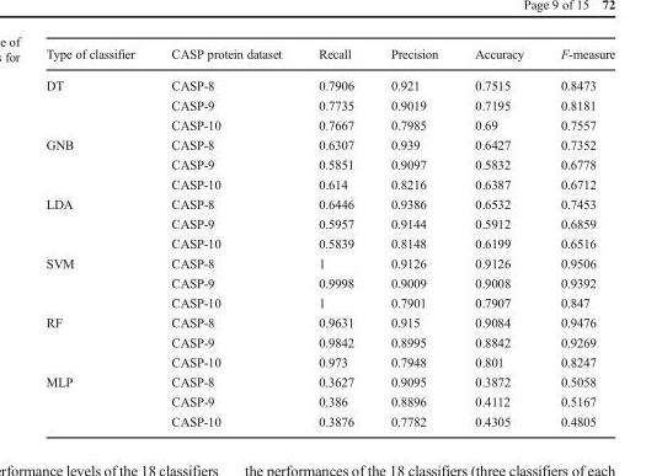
<table><thead><tr><td>Type of classifier</td><td>CASP protein dataset</td><td>Recall</td><td>Precision</td><td>Accuracy</td><td>F-measure</td></tr></thead><tbody><tr><td rowspan="3">DT</td><td>CASP-8</td><td>0.7906</td><td>0.921</td><td>0.7515</td><td>0.8473</td></tr><tr><td>CASP-9</td><td>0.7735</td><td>0.9019</td><td>0.7195</td><td>0.8181</td></tr><tr><td>CASP-10</td><td>0.7667</td><td>0.7985</td><td>0.69</td><td>0.7557</td></tr><tr><td rowspan="3">GNB</td><td>CASP-8</td><td>0.6307</td><td>0.939</td><td>0.6427</td><td>0.7352</td></tr><tr><td>CASP-9</td><td>0.5851</td><td>0.9097</td><td>0.5832</td><td>0.6778</td></tr><tr><td>CASP-10</td><td>0.614</td><td>0.8216</td><td>0.6387</td><td>0.6712</td></tr><tr><td rowspan="3">LDA</td><td>CASP-8</td><td>0.6446</td><td>0.9386</td><td>0.6532</td><td>0.7453</td></tr><tr><td>CASP-9</td><td>0.5957</td><td>0.9144</td><td>0.5912</td><td>0.6859</td></tr><tr><td>CASP-10</td><td>0.5839</td><td>0.8148</td><td>0.6199</td><td>0.6516</td></tr><tr><td rowspan="3">SVM</td><td>CASP-8</td><td>1</td><td>0.9126</td><td>0.9126</td><td>0.9506</td></tr><tr><td>CASP-9</td><td>0.9998</td><td>0.9009</td><td>0.9008</td><td>0.9392</td></tr><tr><td>CASP-10</td><td>1</td><td>0.7901</td><td>0.7907</td><td>0.847</td></tr><tr><td rowspan="3">RF</td><td>CASP-8</td><td>0.9631</td><td>0.915</td><td>0.9084</td><td>0.9476</td></tr><tr><td>CASP-9</td><td>0.9842</td><td>0.8995</td><td>0.8842</td><td>0.9269</td></tr><tr><td>CASP-10</td><td>0.973</td><td>0.7948</td><td>0.801</td><td>0.8247</td></tr><tr><td rowspan="3">MLP</td><td>CASP-8</td><td>0.3627</td><td>0.9095</td><td>0.3872</td><td>0.5058</td></tr><tr><td>CASP-9</td><td>0.386</td><td>0.8896</td><td>0.4112</td><td>0.5167</td></tr><tr><td>CASP-10</td><td>0.3876</td><td>0.7782</td><td>0.4305</td><td>0.4805</td></tr></tbody></table>